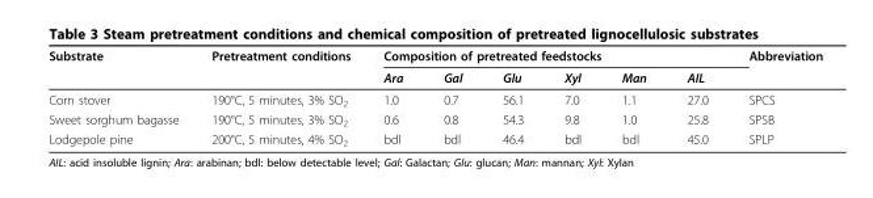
<table><thead><tr><td rowspan="2">Substrate</td><td rowspan="2">Pretreatment conditions</td><td colspan="6">Composition of pretreated feedstocks</td><td rowspan="2">Abbreviation</td></tr><tr><td>Ara</td><td>Gal</td><td>Glu</td><td>Xyl</td><td>Man</td><td>AIL</td></tr></thead><tbody><tr><td>Corn stover</td><td>190°C, 5 minutes, 3% SO<sub>2</sub></td><td>1.0</td><td>0.7</td><td>56.1</td><td>7.0</td><td>1.1</td><td>27.0</td><td>SPCS</td></tr><tr><td>Sweet sorghum bagasse</td><td>190°C, 5 minutes, 3% SO<sub>2</sub></td><td>0.6</td><td>0.8</td><td>54.3</td><td>9.8</td><td>1.0</td><td>25.8</td><td>SPSB</td></tr><tr><td>Lodgepole pine</td><td>200°C, 5 minutes, 4% SO<sub>2</sub></td><td>bdl</td><td>bdl</td><td>46.4</td><td>bdl</td><td>bdl</td><td>45.0</td><td>SPLP</td></tr></tbody></table>